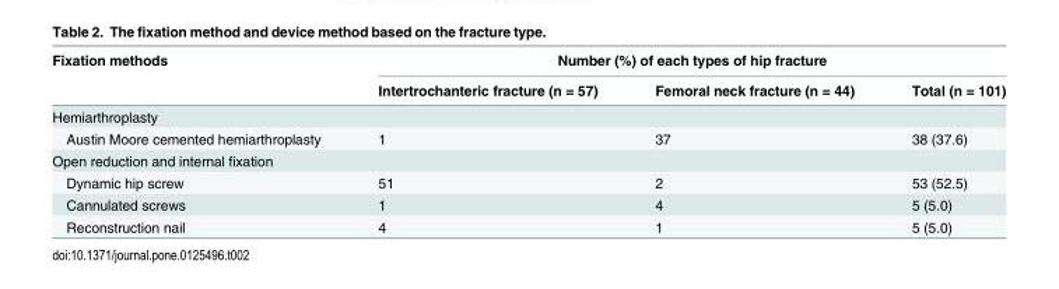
<table><thead><tr><td rowspan="2">Fixation methods</td><td colspan="3">Number (%) of each types of hip fracture</td></tr><tr><td>Intertrochanteric fracture (n = 57)</td><td>Femoral neck fracture (n = 44)</td><td>Total (n = 101)</td></tr></thead><tbody><tr><td colspan="4">Hemiarthroplasty</td></tr><tr><td>Austin Moore cemented hemiarthroplasty</td><td>1</td><td>37</td><td>38 (37.6)</td></tr><tr><td colspan="4">Open reduction and internal fixation</td></tr><tr><td>Dynamic hip screw</td><td>51</td><td>2</td><td>53 (52.5)</td></tr><tr><td>Cannulated screws</td><td>1</td><td>4</td><td>5 (5.0)</td></tr><tr><td>Reconstruction nail</td><td>4</td><td>1</td><td>5 (5.0)</td></tr></tbody></table>